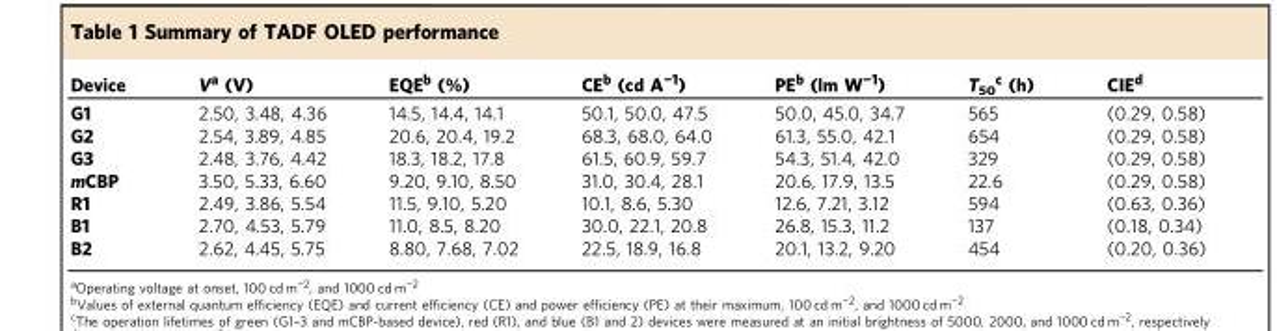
<table><thead><tr><td>Device</td><td>V<sup>a</sup> (V)</td><td>EQE<sup>b</sup> (%)</td><td>CE<sup>b</sup> (cd A<sup>−1</sup>)</td><td>PE<sup>b</sup> (lm W<sup>−1</sup>)</td><td>T<sub>50</sub><sup>c</sup> (h)</td><td>CIE<sup>d</sup></td></tr></thead><tbody><tr><td>G1</td><td>2.50, 3.48, 4.36</td><td>14.5, 14.4, 14.1</td><td>50.1, 50.0, 47.5</td><td>50.0, 45.0, 34.7</td><td>565</td><td>(0.29, 0.58)</td></tr><tr><td>G2</td><td>2.54, 3.89, 4.85</td><td>20.6, 20.4, 19.2</td><td>68.3, 68.0, 64.0</td><td>61.3, 55.0, 42.1</td><td>654</td><td>(0.29, 0.58)</td></tr><tr><td>G3</td><td>2.48, 3.76, 4.42</td><td>18.3, 18.2, 17.8</td><td>61.5, 60.9, 59.7</td><td>54.3, 51.4, 42.0</td><td>329</td><td>(0.29, 0.58)</td></tr><tr><td>mCBP</td><td>3.50, 5.33, 6.60</td><td>9.20, 9.10, 8.50</td><td>31.0, 30.4, 28.1</td><td>20.6, 17.9, 13.5</td><td>22.6</td><td>(0.29, 0.58)</td></tr><tr><td>R1</td><td>2.49, 3.86, 5.54</td><td>11.5, 9.10, 5.20</td><td>10.1, 8.6, 5.30</td><td>12.6, 7.21, 3.12</td><td>594</td><td>(0.63, 0.36)</td></tr><tr><td>B1</td><td>2.70, 4.53, 5.79</td><td>11.0, 8.5, 8.20</td><td>30.0, 22.1, 20.8</td><td>26.8, 15.3, 11.2</td><td>137</td><td>(0.18, 0.34)</td></tr><tr><td>B2</td><td>2.62, 4.45, 5.75</td><td>8.80, 7.68, 7.02</td><td>22.5, 18.9, 16.8</td><td>20.1, 13.2, 9.20</td><td>454</td><td>(0.20, 0.36)</td></tr></tbody></table>